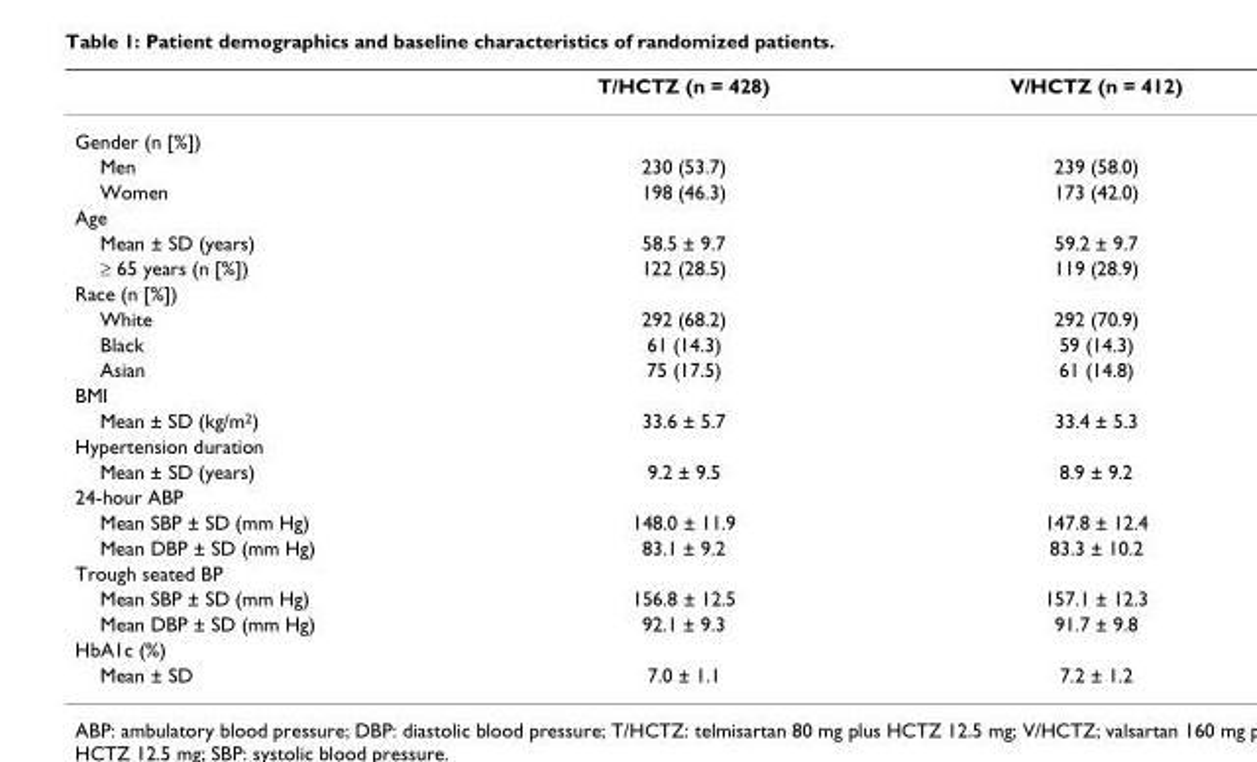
<table><thead><tr><td></td><td>T/HCTZ (n = 428)</td><td>V/HCTZ (n = 412)</td></tr></thead><tbody><tr><td colspan="3">Gender (n [%])</td></tr><tr><td>Men</td><td>230 (53.7)</td><td>239 (58.0)</td></tr><tr><td>Women</td><td>198 (46.3)</td><td>173 (42.0)</td></tr><tr><td colspan="3">Age</td></tr><tr><td>Mean ± SD (years)</td><td>58.5 ± 9.7</td><td>59.2 ± 9.7</td></tr><tr><td>≥ 65 years (n [%])</td><td>122 (28.5)</td><td>119 (28.9)</td></tr><tr><td colspan="3">Race (n [%])</td></tr><tr><td>White</td><td>292 (68.2)</td><td>292 (70.9)</td></tr><tr><td>Black</td><td>61 (14.3)</td><td>59 (14.3)</td></tr><tr><td>Asian</td><td>75 (17.5)</td><td>61 (14.8)</td></tr><tr><td colspan="3">BMI</td></tr><tr><td>Mean ± SD (kg/m<sup>2</sup>)</td><td>33.6 ± 5.7</td><td>33.4 ± 5.3</td></tr><tr><td colspan="3">Hypertension duration</td></tr><tr><td>Mean ± SD (years)</td><td>9.2 ± 9.5</td><td>8.9 ± 9.2</td></tr><tr><td colspan="3">24-hour ABP</td></tr><tr><td>Mean SBP ± SD (mm Hg)</td><td>148.0 ± 11.9</td><td>147.8 ± 12.4</td></tr><tr><td>Mean DBP ± SD (mm Hg)</td><td>83.1 ± 9.2</td><td>83.3 ± 10.2</td></tr><tr><td colspan="3">Trough seated BP</td></tr><tr><td>Mean SBP ± SD (mm Hg)</td><td>156.8 ± 12.5</td><td>157.1 ± 12.3</td></tr><tr><td>Mean DBP ± SD (mm Hg)</td><td>92.1 ± 9.3</td><td>91.7 ± 9.8</td></tr><tr><td colspan="3">HbA1c (%)</td></tr><tr><td>Mean ± SD</td><td>7.0 ± 1.1</td><td>7.2 ± 1.2</td></tr></tbody></table>